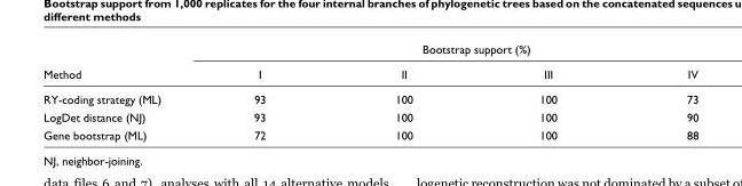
<table><thead><tr><td rowspan="2">Method</td><td colspan="4">Bootstrap support (%)</td></tr><tr><td>I</td><td>II</td><td>III</td><td>IV</td></tr></thead><tbody><tr><td>RY-coding strategy (ML)</td><td>93</td><td>100</td><td>100</td><td>73</td></tr><tr><td>LogDet distance (NJ)</td><td>93</td><td>100</td><td>100</td><td>90</td></tr><tr><td>Gene bootstrap (ML)</td><td>72</td><td>100</td><td>100</td><td>88</td></tr></tbody></table>